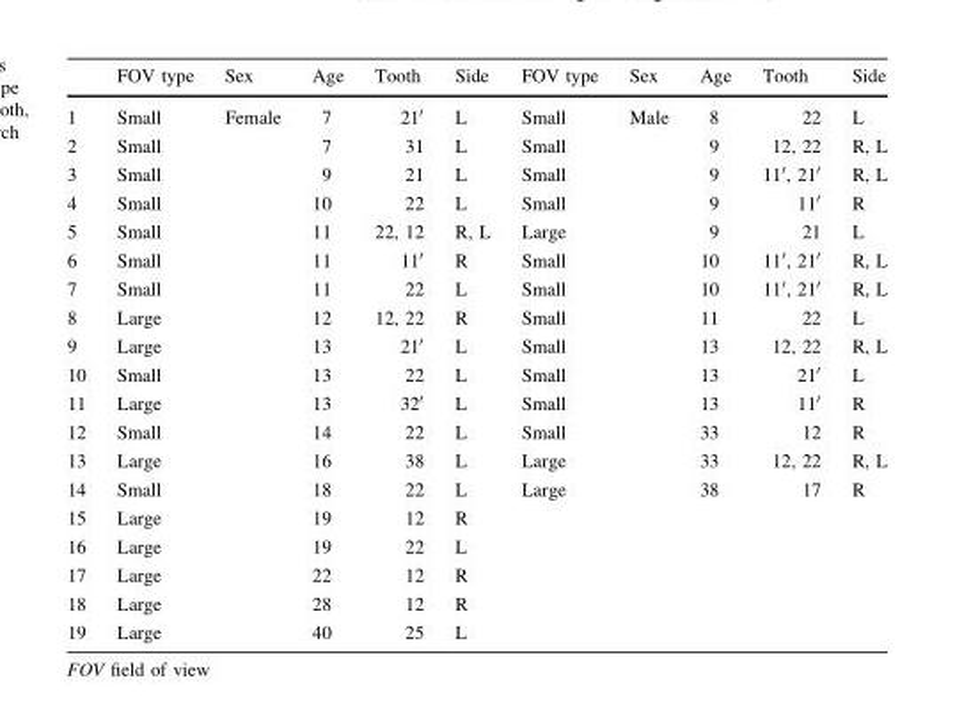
<table><thead><tr><td></td><td>FOV type</td><td>Sex</td><td>Age</td><td>Tooth</td><td>Side</td><td>FOV type</td><td>Sex</td><td>Age</td><td>Tooth</td><td>Side</td></tr></thead><tbody><tr><td>1</td><td>Small</td><td rowspan="19">Female</td><td>7</td><td>21′</td><td>L</td><td>Small</td><td rowspan="19">Male</td><td>8</td><td>22</td><td>L</td></tr><tr><td>2</td><td>Small</td><td>7</td><td>31</td><td>L</td><td>Small</td><td>9</td><td>12, 22</td><td>R, L</td></tr><tr><td>3</td><td>Small</td><td>9</td><td>21</td><td>L</td><td>Small</td><td>9</td><td>11′, 21′</td><td>R, L</td></tr><tr><td>4</td><td>Small</td><td>10</td><td>22</td><td>L</td><td>Small</td><td>9</td><td>11′</td><td>R</td></tr><tr><td>5</td><td>Small</td><td>11</td><td>22, 12</td><td>R, L</td><td>Large</td><td>9</td><td>21</td><td>L</td></tr><tr><td>6</td><td>Small</td><td>11</td><td>11′</td><td>R</td><td>Small</td><td>10</td><td>11′, 21′</td><td>R, L</td></tr><tr><td>7</td><td>Small</td><td>11</td><td>22</td><td>L</td><td>Small</td><td>10</td><td>11′, 21′</td><td>R, L</td></tr><tr><td>8</td><td>Large</td><td>12</td><td>12, 22</td><td>R</td><td>Small</td><td>11</td><td>22</td><td>L</td></tr><tr><td>9</td><td>Large</td><td>13</td><td>21′</td><td>L</td><td>Small</td><td>13</td><td>12, 22</td><td>R, L</td></tr><tr><td>10</td><td>Small</td><td>13</td><td>22</td><td>L</td><td>Small</td><td>13</td><td>21′</td><td>L</td></tr><tr><td>11</td><td>Large</td><td>13</td><td>32′</td><td>L</td><td>Small</td><td>13</td><td>11′</td><td>R</td></tr><tr><td>12</td><td>Small</td><td>14</td><td>22</td><td>L</td><td>Small</td><td>33</td><td>12</td><td>R</td></tr><tr><td>13</td><td>Large</td><td>16</td><td>38</td><td>L</td><td>Large</td><td>33</td><td>12, 22</td><td>R, L</td></tr><tr><td>14</td><td>Small</td><td>18</td><td>22</td><td>L</td><td>Large</td><td>38</td><td>17</td><td>R</td></tr><tr><td>15</td><td>Large</td><td>19</td><td>12</td><td>R</td><td></td><td></td><td></td><td></td></tr><tr><td>16</td><td>Large</td><td>19</td><td>22</td><td>L</td><td></td><td></td><td></td><td></td></tr><tr><td>17</td><td>Large</td><td>22</td><td>12</td><td>R</td><td></td><td></td><td></td><td></td></tr><tr><td>18</td><td>Large</td><td>28</td><td>12</td><td>R</td><td></td><td></td><td></td><td></td></tr><tr><td>19</td><td>Large</td><td>40</td><td>25</td><td>L</td><td></td><td></td><td></td><td></td></tr></tbody></table>